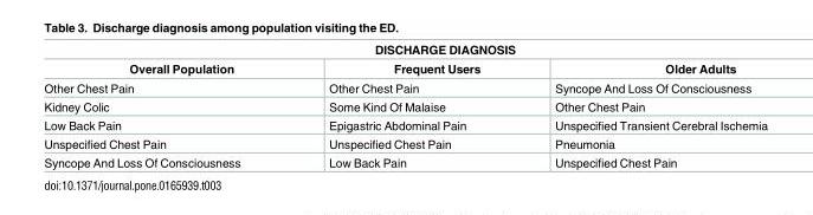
<table><thead><tr><td colspan="3">DISCHARGE DIAGNOSIS</td></tr><tr><td>Overall Population</td><td>Frequent Users</td><td>Older Adults</td></tr></thead><tbody><tr><td>Other Chest Pain</td><td>Other Chest Pain</td><td>Syncope And Loss Of Consciousness</td></tr><tr><td>Kidney Colic</td><td>Some Kind Of Malaise</td><td>Other Chest Pain</td></tr><tr><td>Low Back Pain</td><td>Epigastric Abdominal Pain</td><td>Unspecified Transient Cerebral Ischemia</td></tr><tr><td>Unspecified Chest Pain</td><td>Unspecified Chest Pain</td><td>Pneumonia</td></tr><tr><td>Syncope And Loss Of Consciousness</td><td>Low Back Pain</td><td>Unspecified Chest Pain</td></tr></tbody></table>